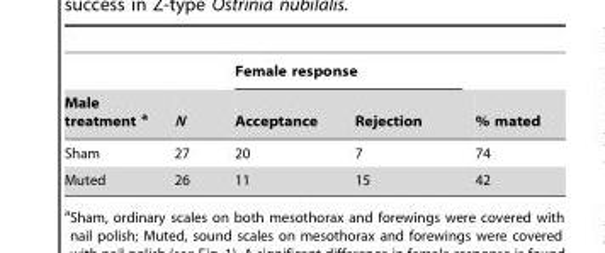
<table><thead><tr><td rowspan="2">Male treatment a</td><td rowspan="2">N</td><td colspan="2">Female response</td><td rowspan="2">% mated</td></tr><tr><td>Acceptance</td><td>Rejection</td></tr></thead><tbody><tr><td>Sham</td><td>27</td><td>20</td><td>7</td><td>74</td></tr><tr><td>Muted</td><td>26</td><td>11</td><td>15</td><td>42</td></tr></tbody></table>